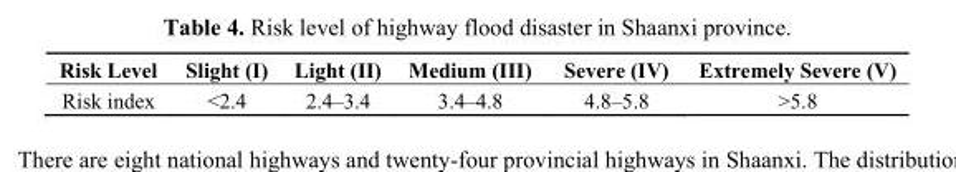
<table><thead><tr><td>Risk Level</td><td>Slight (I)</td><td>Light (II)</td><td>Medium (III)</td><td>Severe (IV)</td><td>Extremely Severe (V)</td></tr></thead><tbody><tr><td>Risk index</td><td>&lt;2.4</td><td>2.4–3.4</td><td>3.4–4.8</td><td>4.8–5.8</td><td>&gt;5.8</td></tr></tbody></table>